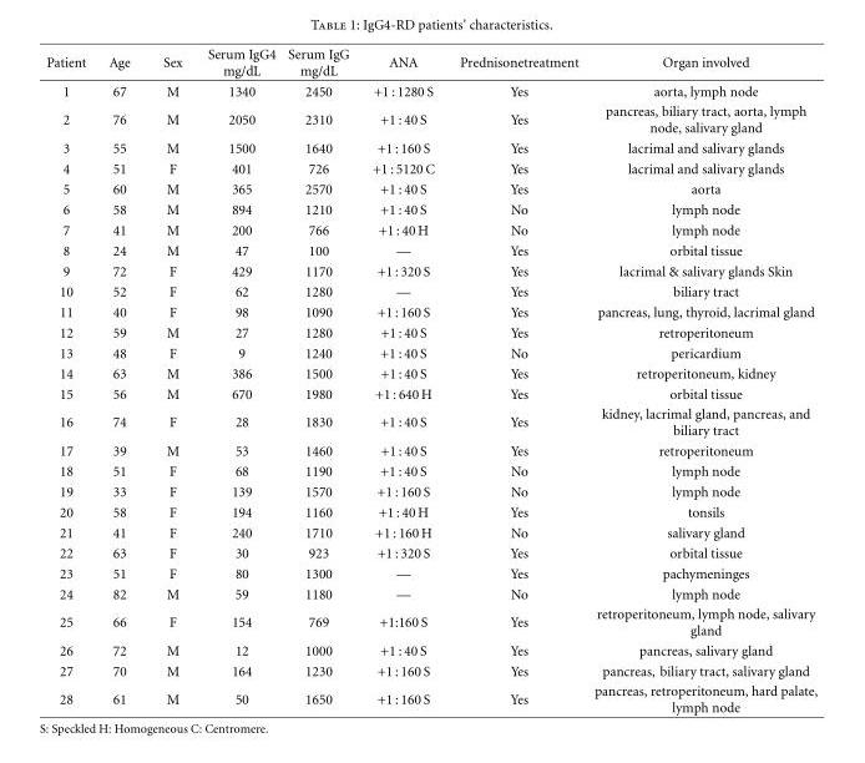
<table><thead><tr><td>Patient</td><td>Age</td><td>Sex</td><td>Serum IgG4 mg/dL</td><td>Serum IgG mg/dL</td><td>ANA</td><td>Prednisonetreatment</td><td>Organ involved</td></tr></thead><tbody><tr><td>1</td><td>67</td><td>M</td><td>1340</td><td>2450</td><td>+1 : 1280 S</td><td>Yes</td><td>aorta, lymph node</td></tr><tr><td>2</td><td>76</td><td>M</td><td>2050</td><td>2310</td><td>+1 : 40 S</td><td>Yes</td><td>pancreas, biliary tract, aorta, lymph node, salivary gland</td></tr><tr><td>3</td><td>55</td><td>M</td><td>1500</td><td>1640</td><td>+1 : 160 S</td><td>Yes</td><td>lacrimal and salivary glands</td></tr><tr><td>4</td><td>51</td><td>F</td><td>401</td><td>726</td><td>+1 : 5120 C</td><td>Yes</td><td>lacrimal and salivary glands</td></tr><tr><td>5</td><td>60</td><td>M</td><td>365</td><td>2570</td><td>+1 : 40 S</td><td>Yes</td><td>aorta</td></tr><tr><td>6</td><td>58</td><td>M</td><td>894</td><td>1210</td><td>+1 : 40 S</td><td>No</td><td>lymph node</td></tr><tr><td>7</td><td>41</td><td>M</td><td>200</td><td>766</td><td>+1 : 40 H</td><td>No</td><td>lymph node</td></tr><tr><td>8</td><td>24</td><td>M</td><td>47</td><td>100</td><td>—</td><td>Yes</td><td>orbital tissue</td></tr><tr><td>9</td><td>72</td><td>F</td><td>429</td><td>1170</td><td>+1 : 320 S</td><td>Yes</td><td>lacrimal &amp; salivary glands Skin</td></tr><tr><td>10</td><td>52</td><td>F</td><td>62</td><td>1280</td><td>—</td><td>Yes</td><td>biliary tract</td></tr><tr><td>11</td><td>40</td><td>F</td><td>98</td><td>1090</td><td>+1 : 160 S</td><td>Yes</td><td>pancreas, lung, thyroid, lacrimal gland</td></tr><tr><td>12</td><td>59</td><td>M</td><td>27</td><td>1280</td><td>+1 : 40 S</td><td>Yes</td><td>retroperitoneum</td></tr><tr><td>13</td><td>48</td><td>F</td><td>9</td><td>1240</td><td>+1 : 40 S</td><td>No</td><td>pericardium</td></tr><tr><td>14</td><td>63</td><td>M</td><td>386</td><td>1500</td><td>+1 : 40 S</td><td>Yes</td><td>retroperitoneum, kidney</td></tr><tr><td>15</td><td>56</td><td>M</td><td>670</td><td>1980</td><td>+1 : 640 H</td><td>Yes</td><td>orbital tissue</td></tr><tr><td>16</td><td>74</td><td>F</td><td>28</td><td>1830</td><td>+1 : 40 S</td><td>Yes</td><td>kidney, lacrimal gland, pancreas, and biliary tract</td></tr><tr><td>17</td><td>39</td><td>M</td><td>53</td><td>1460</td><td>+1 : 40 S</td><td>Yes</td><td>retroperitoneum</td></tr><tr><td>18</td><td>51</td><td>F</td><td>68</td><td>1190</td><td>+1 : 40 S</td><td>No</td><td>lymph node</td></tr><tr><td>19</td><td>33</td><td>F</td><td>139</td><td>1570</td><td>+1 : 160 S</td><td>No</td><td>lymph node</td></tr><tr><td>20</td><td>58</td><td>F</td><td>194</td><td>1160</td><td>+1 : 40 H</td><td>Yes</td><td>tonsils</td></tr><tr><td>21</td><td>41</td><td>F</td><td>240</td><td>1710</td><td>+1 : 160 H</td><td>No</td><td>salivary gland</td></tr><tr><td>22</td><td>63</td><td>F</td><td>30</td><td>923</td><td>+1 : 320 S</td><td>Yes</td><td>orbital tissue</td></tr><tr><td>23</td><td>51</td><td>F</td><td>80</td><td>1300</td><td>—</td><td>Yes</td><td>pachymeninges</td></tr><tr><td>24</td><td>82</td><td>M</td><td>59</td><td>1180</td><td>—</td><td>No</td><td>lymph node</td></tr><tr><td>25</td><td>66</td><td>F</td><td>154</td><td>769</td><td>+1:160 S</td><td>Yes</td><td>retroperitoneum, lymph node, salivary gland</td></tr><tr><td>26</td><td>72</td><td>M</td><td>12</td><td>1000</td><td>+1 : 40 S</td><td>Yes</td><td>pancreas, salivary gland</td></tr><tr><td>27</td><td>70</td><td>M</td><td>164</td><td>1230</td><td>+1 : 160 S</td><td>Yes</td><td>pancreas, biliary tract, salivary gland</td></tr><tr><td>28</td><td>61</td><td>M</td><td>50</td><td>1650</td><td>+1 : 160 S</td><td>Yes</td><td>pancreas, retroperitoneum, hard palate, lymph node</td></tr></tbody></table>